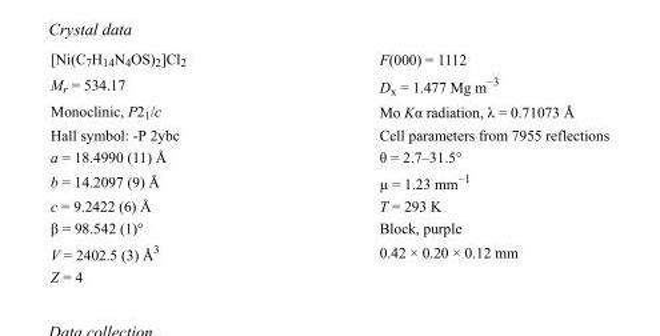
<table><tbody><tr><td>[Ni(C<sub>7</sub>H<sub>14</sub>N<sub>4</sub>OS)<sub>2</sub>]Cl<sub>2</sub></td><td>F(000) = 1112</td></tr><tr><td>M<sub>r</sub> = 534.17</td><td>D<sub>x</sub> = 1.477 Mg m<sup>−3</sup></td></tr><tr><td>Monoclinic, P2<sub>1</sub>/c</td><td>Mo Kα radiation, λ = 0.71073 Å</td></tr><tr><td>Hall symbol: -P 2ybc</td><td>Cell parameters from 7955 reflections</td></tr><tr><td>a = 18.4990 (11) Å</td><td>θ = 2.7–31.5°</td></tr><tr><td>b = 14.2097 (9) Å</td><td>µ = 1.23 mm<sup>−1</sup></td></tr><tr><td>c = 9.2422 (6) Å</td><td>T = 293 K</td></tr><tr><td>β = 98.542 (1)°</td><td>Block, purple</td></tr><tr><td>V = 2402.5 (3) Å<sup>3</sup></td><td>0.42 × 0.20 × 0.12 mm</td></tr><tr><td>Z = 4</td><td></td></tr></tbody></table>